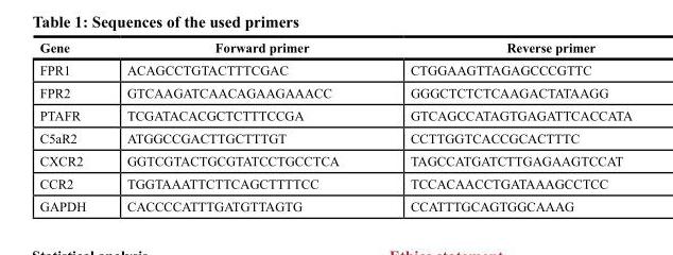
<table><thead><tr><td>Gene</td><td>Forward primer</td><td>Reverse primer</td></tr></thead><tbody><tr><td>FPR1</td><td>ACAGCCTGTACTTTCGAC</td><td>CTGGAAGTTAGAGCCCGTTC</td></tr><tr><td>FPR2</td><td>GTCAAGATCAACAGAAGAAACC</td><td>GGGCTCTCTCAAGACTATAAGG</td></tr><tr><td>PTAFR</td><td>TCGATACACGCTCTTTCCGA</td><td>GTCAGCCATAGTGAGATTCACCATA</td></tr><tr><td>C5aR2</td><td>ATGGCCGACTTGCTTTGT</td><td>CCTTGGTCACCGCACTTTC</td></tr><tr><td>CXCR2</td><td>GGTCGTACTGCGTATCCTGCCTCA</td><td>TAGCCATGATCTTGAGAAGTCCAT</td></tr><tr><td>CCR2</td><td>TGGTAAATTCTTCAGCTTTTCC</td><td>TCCACAACCTGATAAAGCCTCC</td></tr><tr><td>GAPDH</td><td>CACCCCATTTGATGTTAGTG</td><td>CCATTTGCAGTGGCAAAG</td></tr></tbody></table>